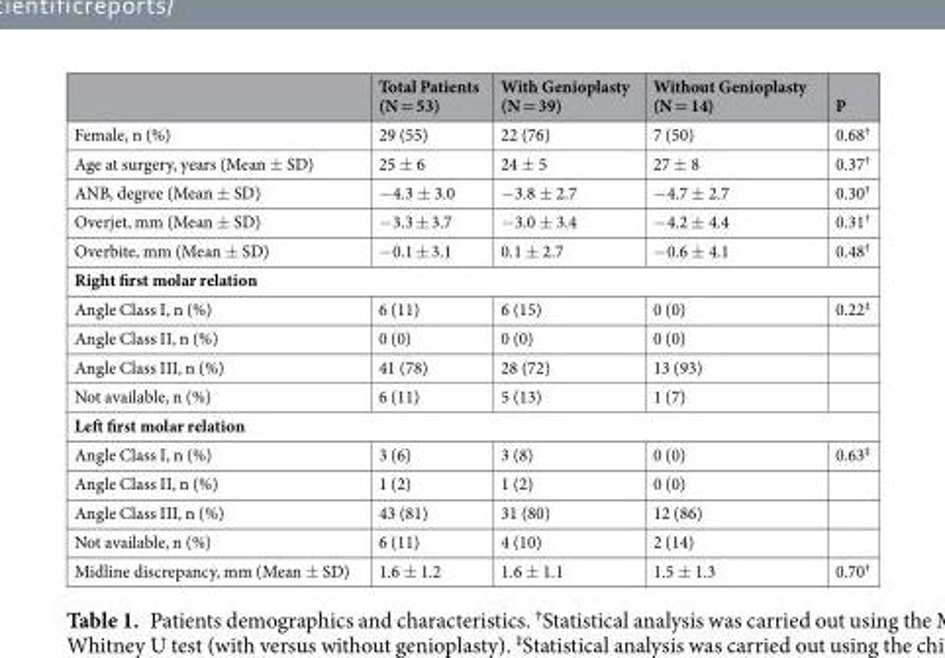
<table><thead><tr><td></td><td>Total Patients (N = 53)</td><td>With Genioplasty (N = 39)</td><td>Without Genioplasty (N = 14)</td><td>P</td></tr></thead><tbody><tr><td>Female, n (%)</td><td>29 (55)</td><td>22 (76)</td><td>7 (50)</td><td>0.68<sup>†</sup></td></tr><tr><td>Age at surgery, years (Mean ± SD)</td><td>25 ± 6</td><td>24 ± 5</td><td>27 ± 8</td><td>0.37<sup>†</sup></td></tr><tr><td>ANB, degree (Mean ± SD)</td><td>−4.3 ± 3.0</td><td>−3.8 ± 2.7</td><td>−4.7 ± 2.7</td><td>0.30<sup>†</sup></td></tr><tr><td>Overjet, mm (Mean ± SD)</td><td>−3.3 ± 3.7</td><td>−3.0 ± 3.4</td><td>−4.2 ± 4.4</td><td>0.31<sup>†</sup></td></tr><tr><td>Overbite, mm (Mean ± SD)</td><td>−0.1 ± 3.1</td><td>0.1 ± 2.7</td><td>−0.6 ± 4.1</td><td>0.48<sup>†</sup></td></tr><tr><td colspan="5">Right first molar relation</td></tr><tr><td>Angle Class I, n (%)</td><td>6 (11)</td><td>6 (15)</td><td>0 (0)</td><td>0.22<sup>‡</sup></td></tr><tr><td>Angle Class II, n (%)</td><td>0 (0)</td><td>0 (0)</td><td>0 (0)</td><td></td></tr><tr><td>Angle Class III, n (%)</td><td>41 (78)</td><td>28 (72)</td><td>13 (93)</td><td></td></tr><tr><td>Not available, n (%)</td><td>6 (11)</td><td>5 (13)</td><td>1 (7)</td><td></td></tr><tr><td colspan="5">Left first molar relation</td></tr><tr><td>Angle Class I, n (%)</td><td>3 (6)</td><td>3 (8)</td><td>0 (0)</td><td>0.63<sup>‡</sup></td></tr><tr><td>Angle Class II, n (%)</td><td>1 (2)</td><td>1 (2)</td><td>0 (0)</td><td></td></tr><tr><td>Angle Class III, n (%)</td><td>43 (81)</td><td>31 (80)</td><td>12 (86)</td><td></td></tr><tr><td>Not available, n (%)</td><td>6 (11)</td><td>4 (10)</td><td>2 (14)</td><td></td></tr><tr><td>Midline discrepancy, mm (Mean ± SD)</td><td>1.6 ± 1.2</td><td>1.6 ± 1.1</td><td>1.5 ± 1.3</td><td>0.70<sup>†</sup></td></tr></tbody></table>